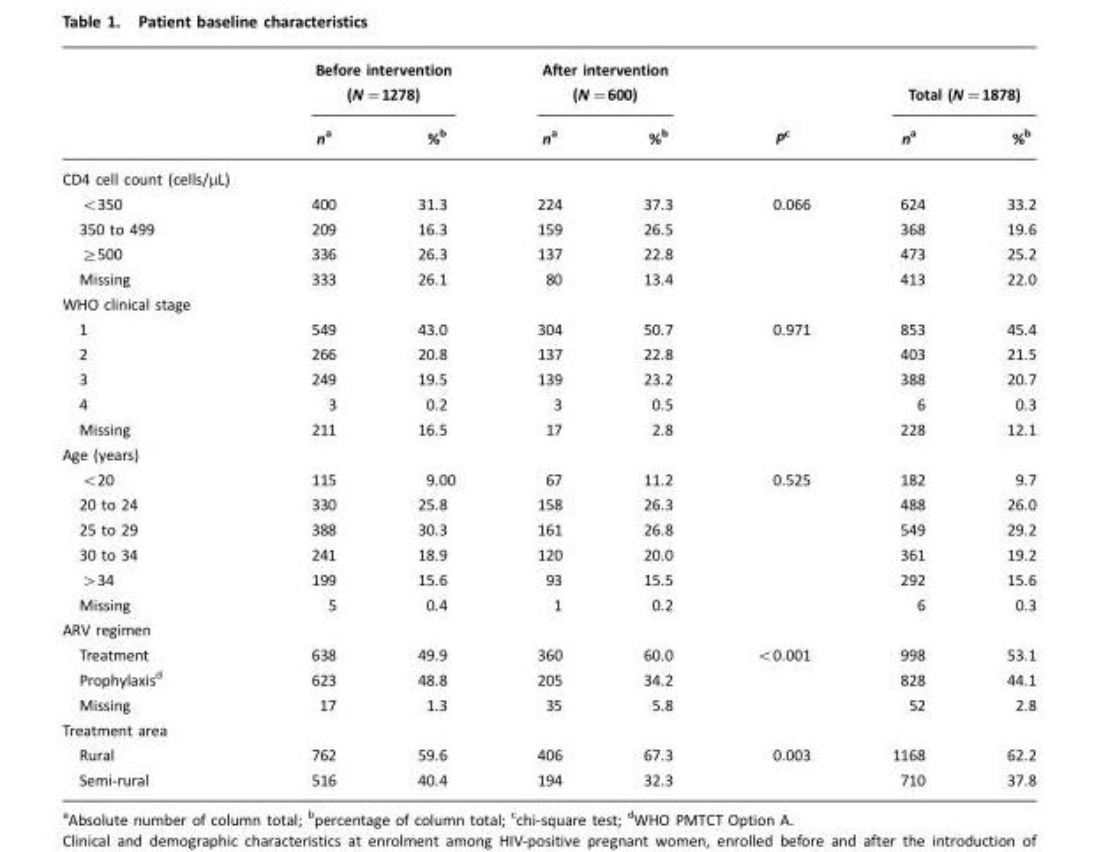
<table><thead><tr><td rowspan="2"></td><td colspan="2">Before intervention (N=1278)</td><td colspan="2">After intervention (N=600)</td><td rowspan="2">Pc</td><td colspan="2">Total (N=1878)</td></tr><tr><td>na</td><td>%<sup>b</sup></td><td>na</td><td>%<sup>b</sup></td><td>na</td><td>%<sup>b</sup></td></tr></thead><tbody><tr><td colspan="8">CD4 cell count (cells/µL)</td></tr><tr><td>&lt;350</td><td>400</td><td>31.3</td><td>224</td><td>37.3</td><td>0.066</td><td>624</td><td>33.2</td></tr><tr><td>350 to 499</td><td>209</td><td>16.3</td><td>159</td><td>26.5</td><td></td><td>368</td><td>19.6</td></tr><tr><td>≥500</td><td>336</td><td>26.3</td><td>137</td><td>22.8</td><td></td><td>473</td><td>25.2</td></tr><tr><td>Missing</td><td>333</td><td>26.1</td><td>80</td><td>13.4</td><td></td><td>413</td><td>22.0</td></tr><tr><td colspan="8">WHO clinical stage</td></tr><tr><td>1</td><td>549</td><td>43.0</td><td>304</td><td>50.7</td><td>0.971</td><td>853</td><td>45.4</td></tr><tr><td>2</td><td>266</td><td>20.8</td><td>137</td><td>22.8</td><td></td><td>403</td><td>21.5</td></tr><tr><td>3</td><td>249</td><td>19.5</td><td>139</td><td>23.2</td><td></td><td>388</td><td>20.7</td></tr><tr><td>4</td><td>3</td><td>0.2</td><td>3</td><td>0.5</td><td></td><td>6</td><td>0.3</td></tr><tr><td>Missing</td><td>211</td><td>16.5</td><td>17</td><td>2.8</td><td></td><td>228</td><td>12.1</td></tr><tr><td colspan="8">Age (years)</td></tr><tr><td>&lt;20</td><td>115</td><td>9.00</td><td>67</td><td>11.2</td><td>0.525</td><td>182</td><td>9.7</td></tr><tr><td>20 to 24</td><td>330</td><td>25.8</td><td>158</td><td>26.3</td><td></td><td>488</td><td>26.0</td></tr><tr><td>25 to 29</td><td>388</td><td>30.3</td><td>161</td><td>26.8</td><td></td><td>549</td><td>29.2</td></tr><tr><td>30 to 34</td><td>241</td><td>18.9</td><td>120</td><td>20.0</td><td></td><td>361</td><td>19.2</td></tr><tr><td>&gt;34</td><td>199</td><td>15.6</td><td>93</td><td>15.5</td><td></td><td>292</td><td>15.6</td></tr><tr><td>Missing</td><td>5</td><td>0.4</td><td>1</td><td>0.2</td><td></td><td>6</td><td>0.3</td></tr><tr><td colspan="8">ARV regimen</td></tr><tr><td>Treatment</td><td>638</td><td>49.9</td><td>360</td><td>60.0</td><td>&lt;0.001</td><td>998</td><td>53.1</td></tr><tr><td>Prophylaxis<sup>d</sup></td><td>623</td><td>48.8</td><td>205</td><td>34.2</td><td></td><td>828</td><td>44.1</td></tr><tr><td>Missing</td><td>17</td><td>1.3</td><td>35</td><td>5.8</td><td></td><td>52</td><td>2.8</td></tr><tr><td colspan="8">Treatment area</td></tr><tr><td>Rural</td><td>762</td><td>59.6</td><td>406</td><td>67.3</td><td>0.003</td><td>1168</td><td>62.2</td></tr><tr><td>Semi-rural</td><td>516</td><td>40.4</td><td>194</td><td>32.3</td><td></td><td>710</td><td>37.8</td></tr></tbody></table>